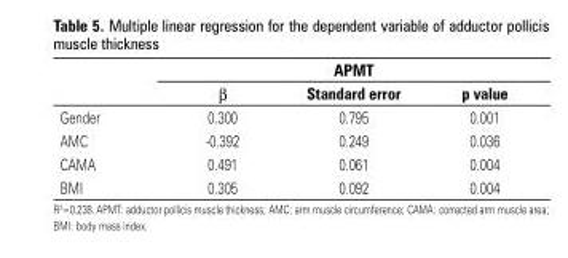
<table><thead><tr><td rowspan="2"></td><td colspan="3">APMT</td></tr><tr><td>β</td><td>Standard error</td><td>p value</td></tr></thead><tbody><tr><td>Gender</td><td>0.300</td><td>0.795</td><td>0.001</td></tr><tr><td>AMC</td><td>-0.392</td><td>0.249</td><td>0.036</td></tr><tr><td>CAMA</td><td>0.491</td><td>0.061</td><td>0.004</td></tr><tr><td>BMI</td><td>0.305</td><td>0.092</td><td>0.004</td></tr></tbody></table>